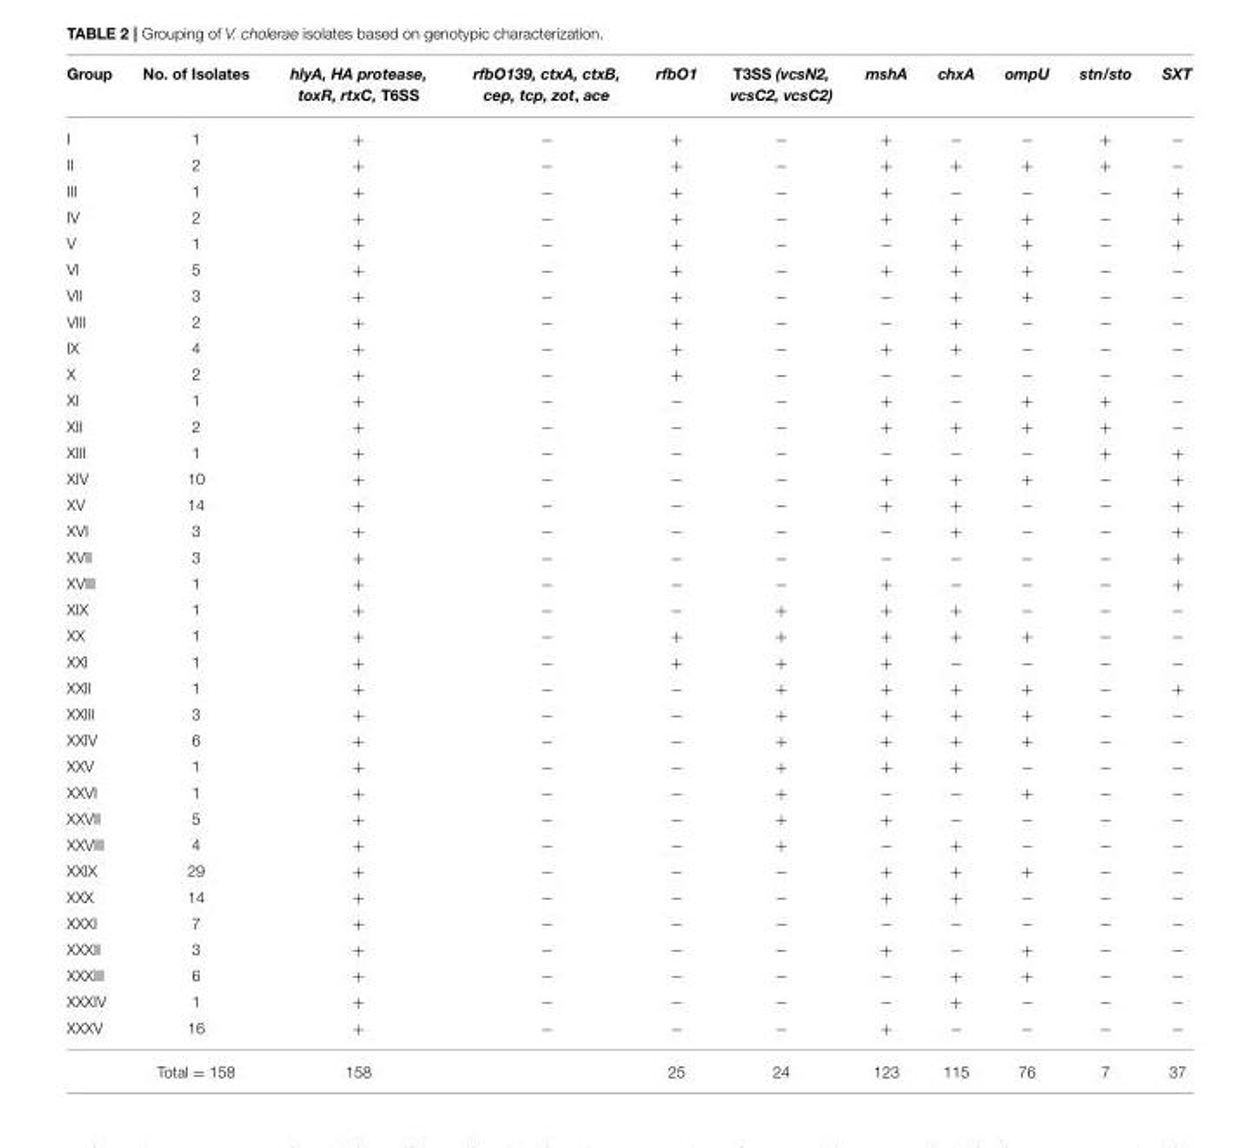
<table><thead><tr><td>Group</td><td>No. of Isolates</td><td>hlyA, HA protease, toxR, rtxC, T6SS</td><td>rfbO139, ctxA, ctxB, cep, tcp, zot, ace</td><td>rfbO1</td><td>T3SS (vcsN2, vcsC2, vcsC2)</td><td>mshA</td><td>chxA</td><td>ompU</td><td>stn/sto</td><td>SXT</td></tr></thead><tbody><tr><td>I</td><td>1</td><td>+</td><td>−</td><td>+</td><td>−</td><td>+</td><td>−</td><td>−</td><td>+</td><td>−</td></tr><tr><td>II</td><td>2</td><td>+</td><td>−</td><td>+</td><td>−</td><td>+</td><td>+</td><td>+</td><td>+</td><td>−</td></tr><tr><td>III</td><td>1</td><td>+</td><td>−</td><td>+</td><td>−</td><td>+</td><td>−</td><td>−</td><td>−</td><td>+</td></tr><tr><td>IV</td><td>2</td><td>+</td><td>−</td><td>+</td><td>−</td><td>+</td><td>+</td><td>+</td><td>−</td><td>+</td></tr><tr><td>V</td><td>1</td><td>+</td><td>−</td><td>+</td><td>−</td><td>−</td><td>+</td><td>+</td><td>−</td><td>+</td></tr><tr><td>VI</td><td>5</td><td>+</td><td>−</td><td>+</td><td>−</td><td>+</td><td>+</td><td>+</td><td>−</td><td>−</td></tr><tr><td>VII</td><td>3</td><td>+</td><td>−</td><td>+</td><td>−</td><td>−</td><td>+</td><td>+</td><td>−</td><td>−</td></tr><tr><td>VIII</td><td>2</td><td>+</td><td>−</td><td>+</td><td>−</td><td>−</td><td>+</td><td>−</td><td>−</td><td>−</td></tr><tr><td>IX</td><td>4</td><td>+</td><td>−</td><td>+</td><td>−</td><td>+</td><td>+</td><td>−</td><td>−</td><td>−</td></tr><tr><td>X</td><td>2</td><td>+</td><td>−</td><td>+</td><td>−</td><td>−</td><td>−</td><td>−</td><td>−</td><td>−</td></tr><tr><td>XI</td><td>1</td><td>+</td><td>−</td><td>−</td><td>−</td><td>+</td><td>−</td><td>+</td><td>+</td><td>−</td></tr><tr><td>XII</td><td>2</td><td>+</td><td>−</td><td>−</td><td>−</td><td>+</td><td>+</td><td>+</td><td>+</td><td>−</td></tr><tr><td>XIII</td><td>1</td><td>+</td><td>−</td><td>−</td><td>−</td><td>−</td><td>−</td><td>−</td><td>+</td><td>+</td></tr><tr><td>XIV</td><td>10</td><td>+</td><td>−</td><td>−</td><td>−</td><td>+</td><td>+</td><td>+</td><td>−</td><td>+</td></tr><tr><td>XV</td><td>14</td><td>+</td><td>−</td><td>−</td><td>−</td><td>+</td><td>+</td><td>−</td><td>−</td><td>+</td></tr><tr><td>XVI</td><td>3</td><td>+</td><td>−</td><td>−</td><td>−</td><td>−</td><td>+</td><td>−</td><td>−</td><td>+</td></tr><tr><td>XVII</td><td>3</td><td>+</td><td>−</td><td>−</td><td>−</td><td>−</td><td>−</td><td>−</td><td>−</td><td>+</td></tr><tr><td>XVIII</td><td>1</td><td>+</td><td>−</td><td>−</td><td>−</td><td>+</td><td>−</td><td>−</td><td>−</td><td>+</td></tr><tr><td>XIX</td><td>1</td><td>+</td><td>−</td><td>−</td><td>+</td><td>+</td><td>+</td><td>−</td><td>−</td><td>−</td></tr><tr><td>XX</td><td>1</td><td>+</td><td>−</td><td>+</td><td>+</td><td>+</td><td>+</td><td>+</td><td>−</td><td>−</td></tr><tr><td>XXI</td><td>1</td><td>+</td><td>−</td><td>+</td><td>+</td><td>+</td><td>−</td><td>−</td><td>−</td><td>−</td></tr><tr><td>XXII</td><td>1</td><td>+</td><td>−</td><td>−</td><td>+</td><td>+</td><td>+</td><td>+</td><td>−</td><td>+</td></tr><tr><td>XXIII</td><td>3</td><td>+</td><td>−</td><td>−</td><td>+</td><td>+</td><td>+</td><td>+</td><td>−</td><td>−</td></tr><tr><td>XXIV</td><td>6</td><td>+</td><td>−</td><td>−</td><td>+</td><td>+</td><td>+</td><td>+</td><td>−</td><td>−</td></tr><tr><td>XXV</td><td>1</td><td>+</td><td>−</td><td>−</td><td>+</td><td>+</td><td>+</td><td>−</td><td>−</td><td>−</td></tr><tr><td>XXVI</td><td>1</td><td>+</td><td>−</td><td>−</td><td>+</td><td>−</td><td>−</td><td>+</td><td>−</td><td>−</td></tr><tr><td>XXVII</td><td>5</td><td>+</td><td>−</td><td>−</td><td>+</td><td>+</td><td>−</td><td>−</td><td>−</td><td>−</td></tr><tr><td>XXVIII</td><td>4</td><td>+</td><td>−</td><td>−</td><td>+</td><td>−</td><td>+</td><td>−</td><td>−</td><td>−</td></tr><tr><td>XXIX</td><td>29</td><td>+</td><td>−</td><td>−</td><td>−</td><td>+</td><td>+</td><td>+</td><td>−</td><td>−</td></tr><tr><td>XXX</td><td>14</td><td>+</td><td>−</td><td>−</td><td>−</td><td>+</td><td>+</td><td>−</td><td>−</td><td>−</td></tr><tr><td>XXXI</td><td>7</td><td>+</td><td>−</td><td>−</td><td>−</td><td>−</td><td>−</td><td>−</td><td>−</td><td>−</td></tr><tr><td>XXXII</td><td>3</td><td>+</td><td>−</td><td>−</td><td>−</td><td>+</td><td>−</td><td>+</td><td>−</td><td>−</td></tr><tr><td>XXXIII</td><td>6</td><td>+</td><td>−</td><td>−</td><td>−</td><td>−</td><td>+</td><td>+</td><td>−</td><td>−</td></tr><tr><td>XXXIV</td><td>1</td><td>+</td><td>−</td><td>−</td><td>−</td><td>−</td><td>+</td><td>−</td><td>−</td><td>−</td></tr><tr><td rowspan="2">XXXV</td><td>16</td><td>+</td><td>−</td><td>−</td><td>−</td><td>+</td><td>−</td><td>−</td><td>−</td><td>−</td></tr><tr><td>Total = 158</td><td>158</td><td></td><td>25</td><td>24</td><td>123</td><td>115</td><td>76</td><td>7</td><td>37</td></tr></tbody></table>